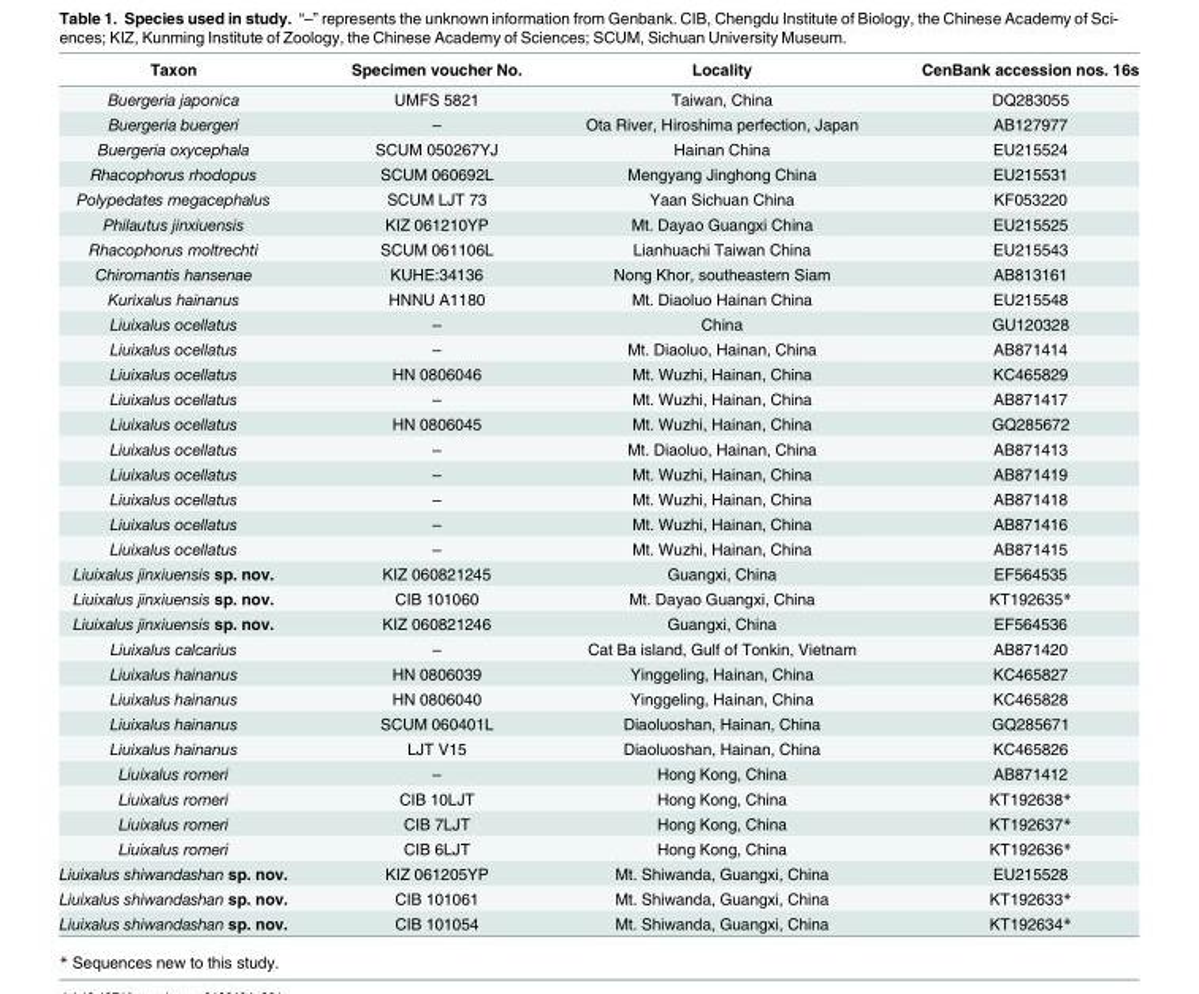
<table><thead><tr><td>Taxon</td><td>Specimen voucher No.</td><td>Locality</td><td>CenBank accession nos. 16s</td></tr></thead><tbody><tr><td>Buergeria japonica</td><td>UMFS 5821</td><td>Taiwan, China</td><td>DQ283055</td></tr><tr><td>Buergeria buergeri</td><td>–</td><td>Ota River, Hiroshima perfection, Japan</td><td>AB127977</td></tr><tr><td>Buergeria oxycephala</td><td>SCUM 050267YJ</td><td>Hainan China</td><td>EU215524</td></tr><tr><td>Rhacophorus rhodopus</td><td>SCUM 060692L</td><td>Mengyang Jinghong China</td><td>EU215531</td></tr><tr><td>Polypedates megacephalus</td><td>SCUM LJT 73</td><td>Yaan Sichuan China</td><td>KF053220</td></tr><tr><td>Philautus jinxiuensis</td><td>KIZ 061210YP</td><td>Mt. Dayao Guangxi China</td><td>EU215525</td></tr><tr><td>Rhacophorus moltrechti</td><td>SCUM 061106L</td><td>Lianhuachi Taiwan China</td><td>EU215543</td></tr><tr><td>Chiromantis hansenae</td><td>KUHE:34136</td><td>Nong Khor, southeastern Siam</td><td>AB813161</td></tr><tr><td>Kurixalus hainanus</td><td>HNNU A1180</td><td>Mt. Diaoluo Hainan China</td><td>EU215548</td></tr><tr><td>Liuixalus ocellatus</td><td>–</td><td>China</td><td>GU120328</td></tr><tr><td>Liuixalus ocellatus</td><td>–</td><td>Mt. Diaoluo, Hainan, China</td><td>AB871414</td></tr><tr><td>Liuixalus ocellatus</td><td>HN 0806046</td><td>Mt. Wuzhi, Hainan, China</td><td>KC465829</td></tr><tr><td>Liuixalus ocellatus</td><td>–</td><td>Mt. Wuzhi, Hainan, China</td><td>AB871417</td></tr><tr><td>Liuixalus ocellatus</td><td>HN 0806045</td><td>Mt. Wuzhi, Hainan, China</td><td>GQ285672</td></tr><tr><td>Liuixalus ocellatus</td><td>–</td><td>Mt. Diaoluo, Hainan, China</td><td>AB871413</td></tr><tr><td>Liuixalus ocellatus</td><td>–</td><td>Mt. Wuzhi, Hainan, China</td><td>AB871419</td></tr><tr><td>Liuixalus ocellatus</td><td>–</td><td>Mt. Wuzhi, Hainan, China</td><td>AB871418</td></tr><tr><td>Liuixalus ocellatus</td><td>–</td><td>Mt. Wuzhi, Hainan, China</td><td>AB871416</td></tr><tr><td>Liuixalus ocellatus</td><td>–</td><td>Mt. Wuzhi, Hainan, China</td><td>AB871415</td></tr><tr><td>Liuixalus jinxiuensis sp. nov.</td><td>KIZ 060821245</td><td>Guangxi, China</td><td>EF564535</td></tr><tr><td>Liuixalus jinxiuensis sp. nov.</td><td>CIB 101060</td><td>Mt. Dayao Guangxi, China</td><td>KT192635*</td></tr><tr><td>Liuixalus jinxiuensis sp. nov.</td><td>KIZ 060821246</td><td>Guangxi, China</td><td>EF564536</td></tr><tr><td>Liuixalus calcarius</td><td>–</td><td>Cat Ba island, Gulf of Tonkin, Vietnam</td><td>AB871420</td></tr><tr><td>Liuixalus hainanus</td><td>HN 0806039</td><td>Yinggeling, Hainan, China</td><td>KC465827</td></tr><tr><td>Liuixalus hainanus</td><td>HN 0806040</td><td>Yinggeling, Hainan, China</td><td>KC465828</td></tr><tr><td>Liuixalus hainanus</td><td>SCUM 060401L</td><td>Diaoluoshan, Hainan, China</td><td>GQ285671</td></tr><tr><td>Liuixalus hainanus</td><td>LJT V15</td><td>Diaoluoshan, Hainan, China</td><td>KC465826</td></tr><tr><td>Liuixalus romeri</td><td>–</td><td>Hong Kong, China</td><td>AB871412</td></tr><tr><td>Liuixalus romeri</td><td>CIB 10LJT</td><td>Hong Kong, China</td><td>KT192638*</td></tr><tr><td>Liuixalus romeri</td><td>CIB 7LJT</td><td>Hong Kong, China</td><td>KT192637*</td></tr><tr><td>Liuixalus romeri</td><td>CIB 6LJT</td><td>Hong Kong, China</td><td>KT192636*</td></tr><tr><td>Liuixalus shiwandashan sp. nov.</td><td>KIZ 061205YP</td><td>Mt. Shiwanda, Guangxi, China</td><td>EU215528</td></tr><tr><td>Liuixalus shiwandashan sp. nov.</td><td>CIB 101061</td><td>Mt. Shiwanda, Guangxi, China</td><td>KT192633*</td></tr><tr><td>Liuixalus shiwandashan sp. nov.</td><td>CIB 101054</td><td>Mt. Shiwanda, Guangxi, China</td><td>KT192634*</td></tr></tbody></table>